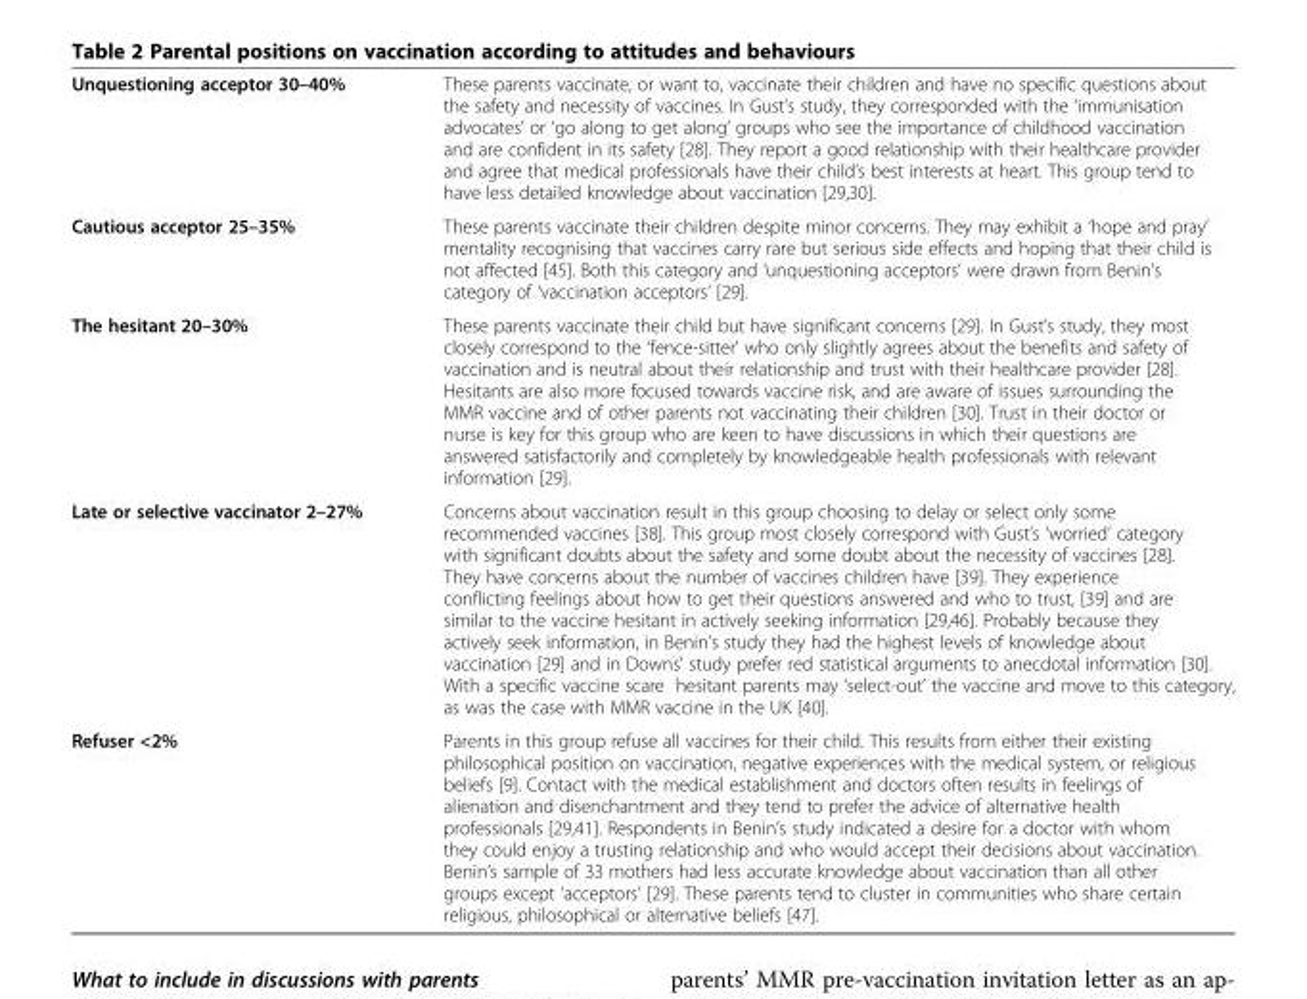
<table><tbody><tr><td>Unquestioning acceptor 30–40%</td><td>These parents vaccinate, or want to, vaccinate their children and have no specific questions about the safety and necessity of vaccines. In Gust’s study, they corresponded with the ‘immunisation advocates’ or ‘go along to get along’ groups who see the importance of childhood vaccination and are confident in its safety [28]. They report a good relationship with their healthcare provider and agree that medical professionals have their child’s best interests at heart. This group tend to have less detailed knowledge about vaccination [29,30].</td></tr><tr><td>Cautious acceptor 25–35%</td><td>These parents vaccinate their children despite minor concerns. They may exhibit a ‘hope and pray’ mentality recognising that vaccines carry rare but serious side effects and hoping that their child is not affected [45]. Both this category and ‘unquestioning acceptors’ were drawn from Benin’s category of ‘vaccination acceptors’ [29].</td></tr><tr><td>The hesitant 20–30%</td><td>These parents vaccinate their child but have significant concerns [29]. In Gust’s study, they most closely correspond to the ‘fence-sitter’ who only slightly agrees about the benefits and safety of vaccination and is neutral about their relationship and trust with their healthcare provider [28]. Hesitants are also more focused towards vaccine risk, and are aware of issues surrounding the MMR vaccine and of other parents not vaccinating their children [30]. Trust in their doctor or nurse is key for this group who are keen to have discussions in which their questions are answered satisfactorily and completely by knowledgeable health professionals with relevant information [29].</td></tr><tr><td>Late or selective vaccinator 2–27%</td><td>Concerns about vaccination result in this group choosing to delay or select only some recommended vaccines [38]. This group most closely correspond with Gust’s ‘worried’ category with significant doubts about the safety and some doubt about the necessity of vaccines [28]. They have concerns about the number of vaccines children have [39]. They experience conflicting feelings about how to get their questions answered and who to trust, [39] and are similar to the vaccine hesitant in actively seeking information [29,46]. Probably because they actively seek information, in Benin’s study they had the highest levels of knowledge about vaccination [29] and in Downs&#x27; study prefer red statistical arguments to anecdotal information [30]. With a specific vaccine scare hesitant parents may ‘select-out’ the vaccine and move to this category, as was the case with MMR vaccine in the UK [40].</td></tr><tr><td>Refuser &lt;2%</td><td>Parents in this group refuse all vaccines for their child. This results from either their existing philosophical position on vaccination, negative experiences with the medical system, or religious beliefs [9]. Contact with the medical establishment and doctors often results in feelings of alienation and disenchantment and they tend to prefer the advice of alternative health professionals [29,41]. Respondents in Benin’s study indicated a desire for a doctor with whom they could enjoy a trusting relationship and who would accept their decisions about vaccination. Benin’s sample of 33 mothers had less accurate knowledge about vaccination than all other groups except ‘acceptors’ [29]. These parents tend to cluster in communities who share certain religious, philosophical or alternative beliefs [47].</td></tr></tbody></table>